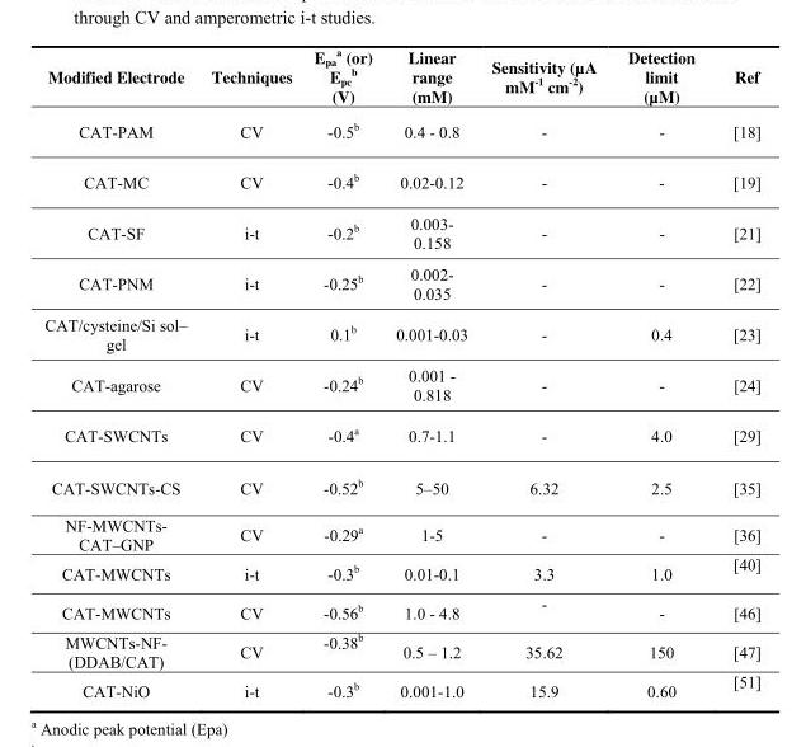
<table><thead><tr><td>Modified Electrode</td><td>Techniques</td><td>E<sub>pa</sub> <sup>a</sup> (or) E<sub>pc</sub> <sup>b</sup> (V)</td><td>Linear range (mM)</td><td>Sensitivity (µA mM<sup>-1</sup> cm<sup>-2</sup>)</td><td>Detection limit (µM)</td><td>Ref</td></tr></thead><tbody><tr><td>CAT-PAM</td><td>CV</td><td>-0.5<sup>b</sup></td><td>0.4 - 0.8</td><td>-</td><td>-</td><td>[18]</td></tr><tr><td>CAT-MC</td><td>CV</td><td>-0.4<sup>b</sup></td><td>0.02-0.12</td><td>-</td><td>-</td><td>[19]</td></tr><tr><td>CAT-SF</td><td>i-t</td><td>-0.2<sup>b</sup></td><td>0.003- 0.158</td><td>-</td><td>-</td><td>[21]</td></tr><tr><td>CAT-PNM</td><td>i-t</td><td>-0.25<sup>b</sup></td><td>0.002- 0.035</td><td>-</td><td>-</td><td>[22]</td></tr><tr><td>CAT/cysteine/Si sol– gel</td><td>i-t</td><td>0.1<sup>b</sup></td><td>0.001-0.03</td><td>-</td><td>0.4</td><td>[23]</td></tr><tr><td>CAT-agarose</td><td>CV</td><td>-0.24<sup>b</sup></td><td>0.001 - 0.818</td><td>-</td><td>-</td><td>[24]</td></tr><tr><td>CAT-SWCNTs</td><td>CV</td><td>-0.4<sup>a</sup></td><td>0.7-1.1</td><td>-</td><td>4.0</td><td>[29]</td></tr><tr><td>CAT-SWCNTs-CS</td><td>CV</td><td>-0.52<sup>b</sup></td><td>5–50</td><td>6.32</td><td>2.5</td><td>[35]</td></tr><tr><td>NF-MWCNTs- CAT–GNP</td><td>CV</td><td>-0.29<sup>a</sup></td><td>1-5</td><td>-</td><td>-</td><td>[36]</td></tr><tr><td>CAT-MWCNTs</td><td>i-t</td><td>-0.3<sup>b</sup></td><td>0.01-0.1</td><td>3.3</td><td>1.0</td><td>[40]</td></tr><tr><td>CAT-MWCNTs</td><td>CV</td><td>-0.56<sup>b</sup></td><td>1.0 - 4.8</td><td>-</td><td>-</td><td>[46]</td></tr><tr><td>MWCNTs-NF- (DDAB/CAT)</td><td>CV</td><td>-0.38<sup>b</sup></td><td>0.5 – 1.2</td><td>35.62</td><td>150</td><td>[47]</td></tr><tr><td>CAT-NiO</td><td>i-t</td><td>-0.3<sup>b</sup></td><td>0.001-1.0</td><td>15.9</td><td>0.60</td><td>[51]</td></tr></tbody></table>